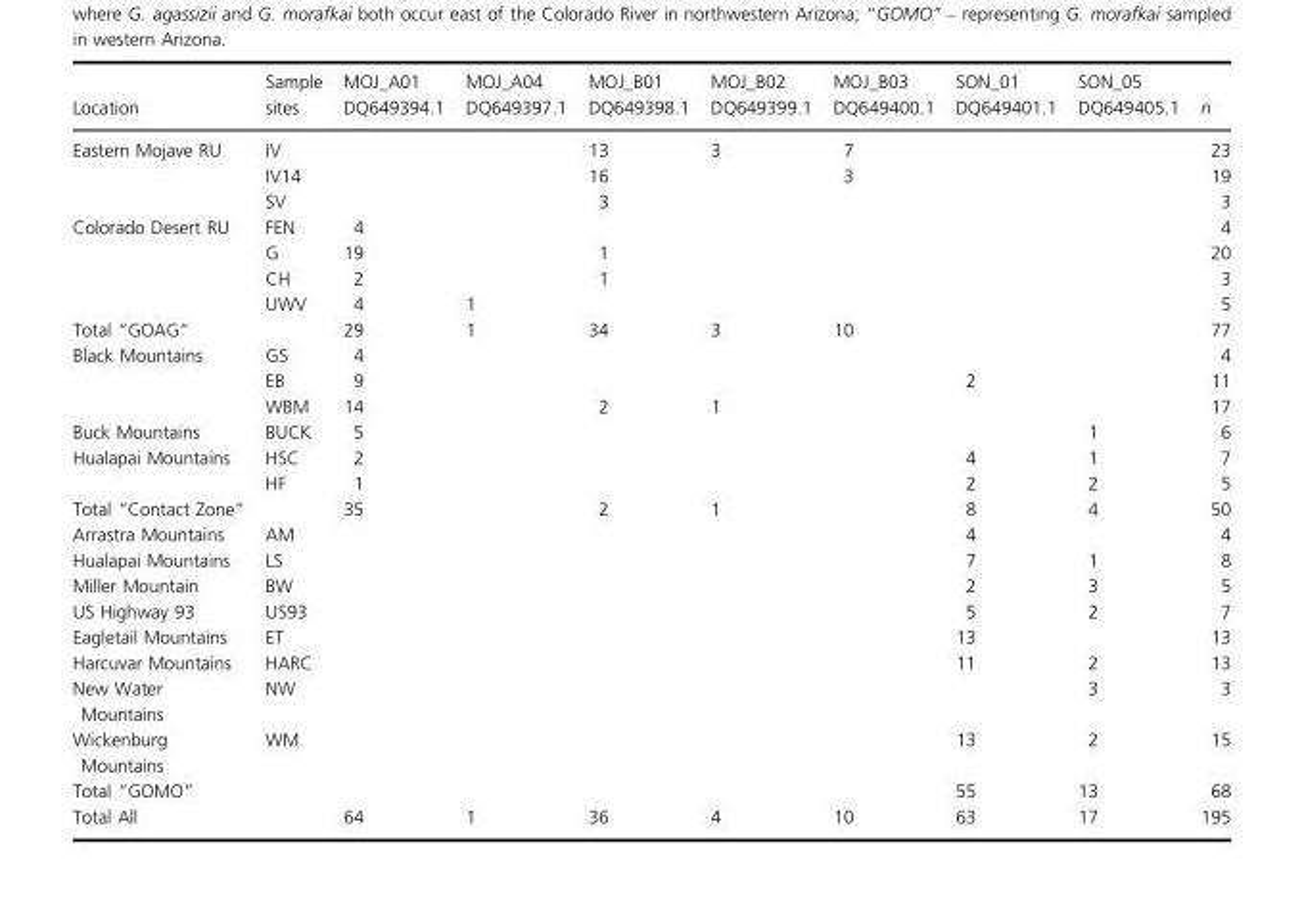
<table><thead><tr><td rowspan="2">Location</td><td rowspan="2">Sample sites</td><td rowspan="2">MOJ_A01 DQ649394.1</td><td rowspan="2">MOJ_A04 DQ649397.1</td><td rowspan="2">MOJ_B01 DQ649398.1</td><td rowspan="2">MOJ_B02 DQ649399.1</td><td rowspan="2">MOJ_B03 DQ649400.1</td><td rowspan="2">SON_01 DQ649401.1</td><td rowspan="2">SON_05 DQ649405.1</td><td rowspan="2">n</td></tr><tr></tr></thead><tbody><tr><td rowspan="3">Eastern Mojave RU</td><td>IV</td><td></td><td></td><td>13</td><td>3</td><td>7</td><td></td><td></td><td>23</td></tr><tr><td>IV14</td><td></td><td></td><td>16</td><td></td><td>3</td><td></td><td></td><td>19</td></tr><tr><td>SV</td><td></td><td></td><td>3</td><td></td><td></td><td></td><td></td><td>3</td></tr><tr><td rowspan="4">Colorado Desert RU</td><td>FEN</td><td>4</td><td></td><td></td><td></td><td></td><td></td><td></td><td>4</td></tr><tr><td>G</td><td>19</td><td></td><td>1</td><td></td><td></td><td></td><td></td><td>20</td></tr><tr><td>CH</td><td>2</td><td></td><td>1</td><td></td><td></td><td></td><td></td><td>3</td></tr><tr><td>UWV</td><td>4</td><td>1</td><td></td><td></td><td></td><td></td><td></td><td>5</td></tr><tr><td>Total “GOAG”</td><td></td><td>29</td><td>1</td><td>34</td><td>3</td><td>10</td><td></td><td></td><td>77</td></tr><tr><td rowspan="3">Black Mountains</td><td>GS</td><td>4</td><td></td><td></td><td></td><td></td><td></td><td></td><td>4</td></tr><tr><td>EB</td><td>9</td><td></td><td></td><td></td><td></td><td>2</td><td></td><td>11</td></tr><tr><td>WBM</td><td>14</td><td></td><td>2</td><td>1</td><td></td><td></td><td></td><td>17</td></tr><tr><td>Buck Mountains</td><td>BUCK</td><td>5</td><td></td><td></td><td></td><td></td><td></td><td>1</td><td>6</td></tr><tr><td rowspan="2">Hualapai Mountains</td><td>HSC</td><td>2</td><td></td><td></td><td></td><td></td><td>4</td><td>1</td><td>7</td></tr><tr><td>HF</td><td>1</td><td></td><td></td><td></td><td></td><td>2</td><td>2</td><td>5</td></tr><tr><td>Total “Contact Zone”</td><td></td><td>35</td><td></td><td>2</td><td>1</td><td></td><td>8</td><td>4</td><td>50</td></tr><tr><td>Arrastra Mountains</td><td>AM</td><td></td><td></td><td></td><td></td><td></td><td>4</td><td></td><td>4</td></tr><tr><td>Hualapai Mountains</td><td>LS</td><td></td><td></td><td></td><td></td><td></td><td>7</td><td>1</td><td>8</td></tr><tr><td>Miller Mountain</td><td>BW</td><td></td><td></td><td></td><td></td><td></td><td>2</td><td>3</td><td>5</td></tr><tr><td>US Highway 93</td><td>US93</td><td></td><td></td><td></td><td></td><td></td><td>5</td><td>2</td><td>7</td></tr><tr><td>Eagletail Mountains</td><td>ET</td><td></td><td></td><td></td><td></td><td></td><td>13</td><td></td><td>13</td></tr><tr><td>Harcuvar Mountains</td><td>HARC</td><td></td><td></td><td></td><td></td><td></td><td>11</td><td>2</td><td>13</td></tr><tr><td>New Water Mountains</td><td>NW</td><td></td><td></td><td></td><td></td><td></td><td></td><td>3</td><td>3</td></tr><tr><td>Wickenburg Mountains</td><td>WM</td><td></td><td></td><td></td><td></td><td></td><td>13</td><td>2</td><td>15</td></tr><tr><td>Total “GOMO”</td><td></td><td></td><td></td><td></td><td></td><td></td><td>55</td><td>13</td><td>68</td></tr><tr><td>Total All</td><td></td><td>64</td><td>1</td><td>36</td><td>4</td><td>10</td><td>63</td><td>17</td><td>195</td></tr></tbody></table>